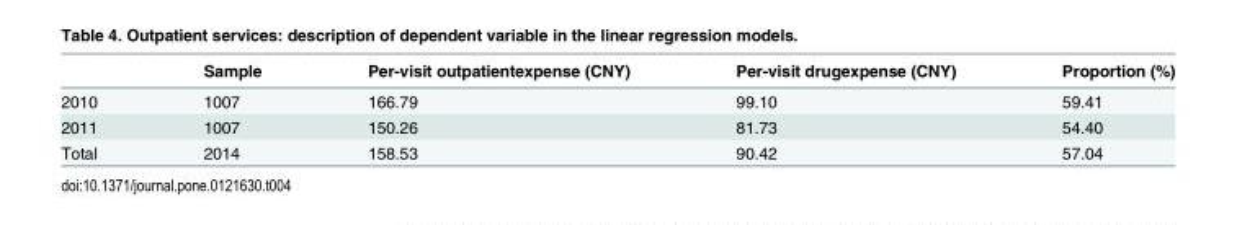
<table><thead><tr><td></td><td>Sample</td><td>Per-visit outpatientexpense (CNY)</td><td>Per-visit drugexpense (CNY)</td><td>Proportion (%)</td></tr></thead><tbody><tr><td>2010</td><td>1007</td><td>166.79</td><td>99.10</td><td>59.41</td></tr><tr><td>2011</td><td>1007</td><td>150.26</td><td>81.73</td><td>54.40</td></tr><tr><td>Total</td><td>2014</td><td>158.53</td><td>90.42</td><td>57.04</td></tr></tbody></table>